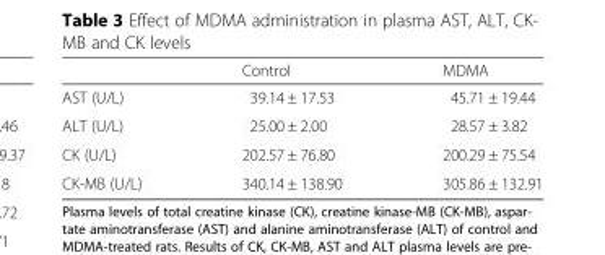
<table><thead><tr><td></td><td>Control</td><td>MDMA</td></tr></thead><tbody><tr><td>AST (U/L)</td><td>39.14 ± 17.53</td><td>45.71 ± 19.44</td></tr><tr><td>ALT (U/L)</td><td>25.00 ± 2.00</td><td>28.57 ± 3.82</td></tr><tr><td>CK (U/L)</td><td>202.57 ± 76.80</td><td>200.29 ± 75.54</td></tr><tr><td>CK-MB (U/L)</td><td>340.14 ± 138.90</td><td>305.86 ± 132.91</td></tr></tbody></table>